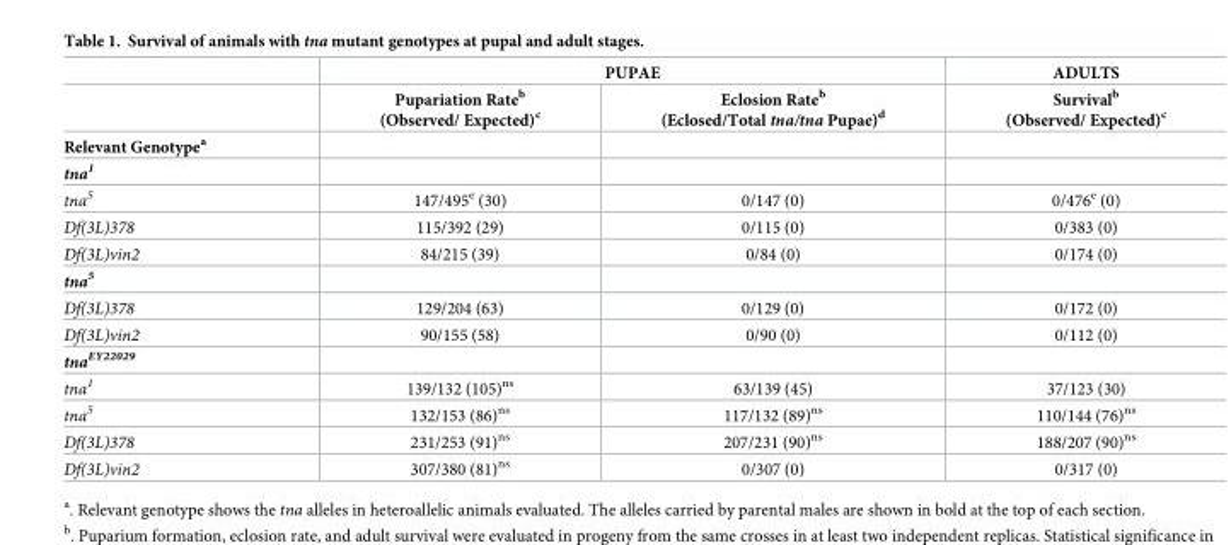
<table><thead><tr><td rowspan="3">Relevant Genotype<sup>a</sup></td><td colspan="2">PUPAE</td><td rowspan="3">ADULTS Survival<sup>b</sup> (Observed/ Expected)<sup>c</sup></td></tr><tr><td rowspan="2">Pupariation Rate<sup>b</sup> (Observed/ Expected)<sup>c</sup></td><td rowspan="2">Eclosion Rate<sup>b</sup> (Eclosed/Total tna/tna Pupae)<sup>d</sup></td></tr><tr></tr></thead><tbody><tr><td colspan="4">tna1</td></tr><tr><td>tna<sup>5</sup></td><td>147/495<sup>e</sup> (30)</td><td>0/147 (0)</td><td>0/476<sup>e</sup> (0)</td></tr><tr><td>Df(3L)378</td><td>115/392 (29)</td><td>0/115 (0)</td><td>0/383 (0)</td></tr><tr><td>Df(3L)vin2</td><td>84/215 (39)</td><td>0/84 (0)</td><td>0/174 (0)</td></tr><tr><td colspan="4">tna<sup>5</sup></td></tr><tr><td>Df(3L)378</td><td>129/204 (63)</td><td>0/129 (0)</td><td>0/172 (0)</td></tr><tr><td>Df(3L)vin2</td><td>90/155 (58)</td><td>0/90 (0)</td><td>0/112 (0)</td></tr><tr><td colspan="4">tna<sup>EY22029</sup></td></tr><tr><td>tna<sup>1</sup></td><td>139/132 (105)<sup>ns</sup></td><td>63/139 (45)</td><td>37/123 (30)</td></tr><tr><td>tna<sup>5</sup></td><td>132/153 (86)<sup>ns</sup></td><td>117/132 (89)<sup>ns</sup></td><td>110/144 (76)<sup>ns</sup></td></tr><tr><td>Df(3L)378</td><td>231/253 (91)<sup>ns</sup></td><td>207/231 (90)<sup>ns</sup></td><td>188/207 (90)<sup>ns</sup></td></tr><tr><td>Df(3L)vin2</td><td>307/380 (81)<sup>ns</sup></td><td>0/307 (0)</td><td>0/317 (0)</td></tr></tbody></table>